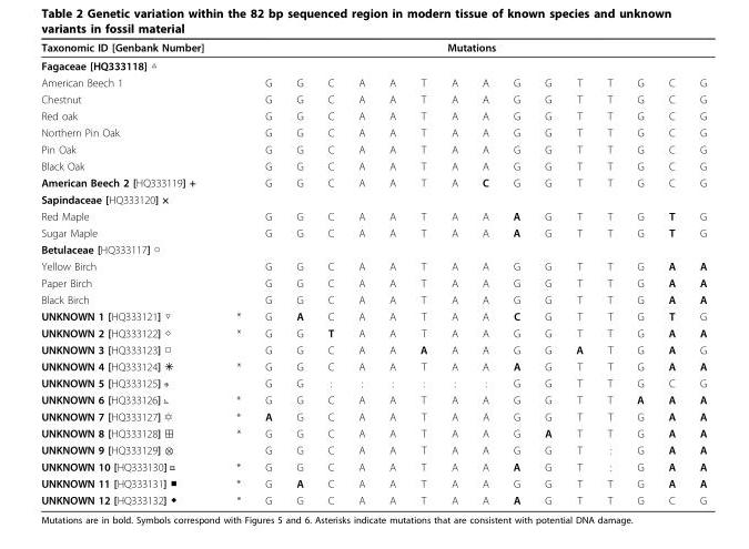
<table><thead><tr><td rowspan="2">Taxonomic ID [Genbank Number] Fagaceae [HQ333118] △</td><td colspan="16">Mutations</td></tr><tr><td></td><td></td><td></td><td></td><td></td><td></td><td></td><td></td><td></td><td></td><td></td><td></td><td></td><td></td><td></td><td></td></tr></thead><tbody><tr><td>American Beech 1</td><td></td><td>G</td><td>G</td><td>C</td><td>A</td><td>A</td><td>T</td><td>A</td><td>A</td><td>G</td><td>G</td><td>T</td><td>T</td><td>G</td><td>C</td><td>G</td></tr><tr><td>Chestnut</td><td></td><td>G</td><td>G</td><td>C</td><td>A</td><td>A</td><td>T</td><td>A</td><td>A</td><td>G</td><td>G</td><td>T</td><td>T</td><td>G</td><td>C</td><td>G</td></tr><tr><td>Red oak</td><td></td><td>G</td><td>G</td><td>C</td><td>A</td><td>A</td><td>T</td><td>A</td><td>A</td><td>G</td><td>G</td><td>T</td><td>T</td><td>G</td><td>C</td><td>G</td></tr><tr><td>Northern Pin Oak</td><td></td><td>G</td><td>G</td><td>C</td><td>A</td><td>A</td><td>T</td><td>A</td><td>A</td><td>G</td><td>G</td><td>T</td><td>T</td><td>G</td><td>C</td><td>G</td></tr><tr><td>Pin Oak</td><td></td><td>G</td><td>G</td><td>C</td><td>A</td><td>A</td><td>T</td><td>A</td><td>A</td><td>G</td><td>G</td><td>T</td><td>T</td><td>G</td><td>C</td><td>G</td></tr><tr><td>Black Oak</td><td></td><td>G</td><td>G</td><td>C</td><td>A</td><td>A</td><td>T</td><td>A</td><td>A</td><td>G</td><td>G</td><td>T</td><td>T</td><td>G</td><td>C</td><td>G</td></tr><tr><td>American Beech 2 [HQ333119] +</td><td></td><td>G</td><td>G</td><td>C</td><td>A</td><td>A</td><td>T</td><td>A</td><td>C</td><td>G</td><td>G</td><td>T</td><td>T</td><td>G</td><td>C</td><td>G</td></tr><tr><td colspan="17">Sapindaceae [HQ333120] ×</td></tr><tr><td>Red Maple</td><td></td><td>G</td><td>G</td><td>C</td><td>A</td><td>A</td><td>T</td><td>A</td><td>A</td><td>A</td><td>G</td><td>T</td><td>T</td><td>G</td><td>T</td><td>G</td></tr><tr><td>Sugar Maple</td><td></td><td>G</td><td>G</td><td>C</td><td>A</td><td>A</td><td>T</td><td>A</td><td>A</td><td>A</td><td>G</td><td>T</td><td>T</td><td>G</td><td>T</td><td>G</td></tr><tr><td colspan="17">Betulaceae [HQ333117] ○</td></tr><tr><td>Yellow Birch</td><td></td><td>G</td><td>G</td><td>C</td><td>A</td><td>A</td><td>T</td><td>A</td><td>A</td><td>G</td><td>G</td><td>T</td><td>T</td><td>G</td><td>A</td><td>A</td></tr><tr><td>Paper Birch</td><td></td><td>G</td><td>G</td><td>C</td><td>A</td><td>A</td><td>T</td><td>A</td><td>A</td><td>G</td><td>G</td><td>T</td><td>T</td><td>G</td><td>A</td><td>A</td></tr><tr><td>Black Birch</td><td></td><td>G</td><td>G</td><td>C</td><td>A</td><td>A</td><td>T</td><td>A</td><td>A</td><td>G</td><td>G</td><td>T</td><td>T</td><td>G</td><td>A</td><td>A</td></tr><tr><td>UNKNOWN 1 [HQ333121] ▽</td><td>*</td><td>G</td><td>A</td><td>C</td><td>A</td><td>A</td><td>T</td><td>A</td><td>A</td><td>C</td><td>G</td><td>T</td><td>T</td><td>G</td><td>T</td><td>G</td></tr><tr><td>UNKNOWN 2 [HQ333122] ◇</td><td>*</td><td>G</td><td>G</td><td>T</td><td>A</td><td>A</td><td>T</td><td>A</td><td>A</td><td>G</td><td>G</td><td>T</td><td>T</td><td>G</td><td>A</td><td>A</td></tr><tr><td>UNKNOWN 3 [HQ333123] □</td><td></td><td>G</td><td>G</td><td>C</td><td>A</td><td>A</td><td>A</td><td>A</td><td>A</td><td>G</td><td>G</td><td>A</td><td>T</td><td>G</td><td>A</td><td>G</td></tr><tr><td>UNKNOWN 4 [HQ333124] ✴</td><td>*</td><td>G</td><td>G</td><td>C</td><td>A</td><td>A</td><td>T</td><td>A</td><td>A</td><td>A</td><td>G</td><td>T</td><td>T</td><td>G</td><td>A</td><td>A</td></tr><tr><td>UNKNOWN 5 [HQ333125]</td><td></td><td>G</td><td>G</td><td>:</td><td>:</td><td>:</td><td>:</td><td>:</td><td>:</td><td>G</td><td>G</td><td>T</td><td>T</td><td>G</td><td>C</td><td>G</td></tr><tr><td>UNKNOWN 6 [HQ333126]</td><td>*</td><td>G</td><td>G</td><td>C</td><td>A</td><td>A</td><td>T</td><td>A</td><td>A</td><td>G</td><td>G</td><td>T</td><td>T</td><td>A</td><td>A</td><td>A</td></tr><tr><td>UNKNOWN 7 [HQ333127] ✡</td><td>*</td><td>A</td><td>G</td><td>C</td><td>A</td><td>A</td><td>T</td><td>A</td><td>A</td><td>G</td><td>G</td><td>T</td><td>T</td><td>G</td><td>A</td><td>A</td></tr><tr><td>UNKNOWN 8 [HQ333128] ⊞</td><td>*</td><td>G</td><td>G</td><td>C</td><td>A</td><td>A</td><td>T</td><td>A</td><td>A</td><td>G</td><td>A</td><td>T</td><td>T</td><td>G</td><td>A</td><td>A</td></tr><tr><td>UNKNOWN 9 [HQ333129] ⊗</td><td></td><td>G</td><td>G</td><td>C</td><td>A</td><td>A</td><td>T</td><td>A</td><td>A</td><td>G</td><td>G</td><td>T</td><td>:</td><td>G</td><td>A</td><td>A</td></tr><tr><td>UNKNOWN 10 [HQ333130]</td><td>*</td><td>G</td><td>G</td><td>C</td><td>A</td><td>A</td><td>T</td><td>A</td><td>A</td><td>A</td><td>G</td><td>T</td><td>:</td><td>G</td><td>A</td><td>A</td></tr><tr><td>UNKNOWN 11 [HQ333131] ■</td><td>*</td><td>G</td><td>A</td><td>C</td><td>A</td><td>A</td><td>T</td><td>A</td><td>A</td><td>G</td><td>G</td><td>T</td><td>T</td><td>G</td><td>A</td><td>A</td></tr><tr><td>UNKNOWN 12 [HQ333132] ◆</td><td>*</td><td>G</td><td>G</td><td>C</td><td>A</td><td>A</td><td>T</td><td>A</td><td>A</td><td>A</td><td>G</td><td>T</td><td>T</td><td>G</td><td>C</td><td>G</td></tr></tbody></table>